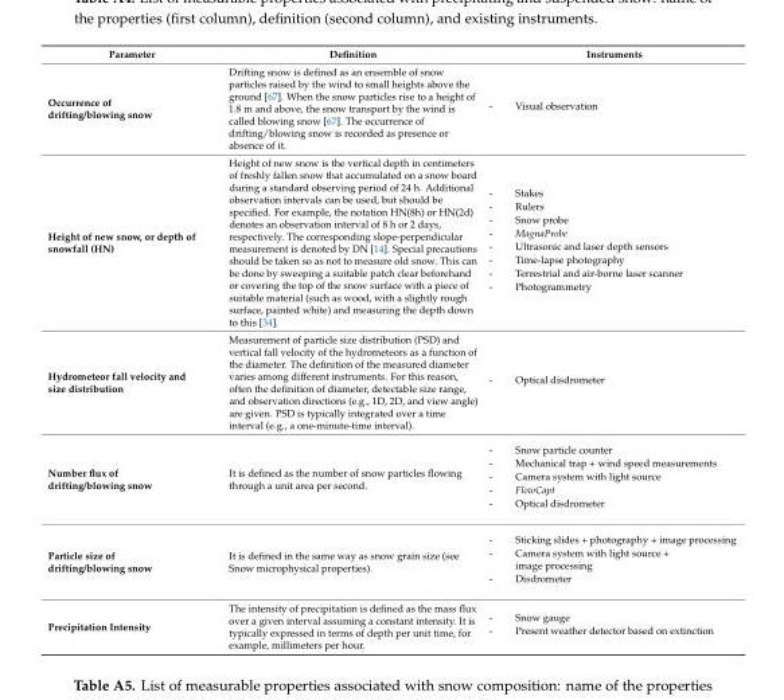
<table><thead><tr><td>Parameter</td><td>Definition</td><td>Instruments</td></tr></thead><tbody><tr><td>Occurrence of drifting/blowing snow</td><td>Drifting snow is defined as an ensemble of snow particles raised by the wind to small heights above the ground [67]. When the snow particles rise to a height of 1.8 m and above, the snow transport by the wind is called blowing snow [67]. The occurrence of drifting/blowing snow is recorded as presence or absence of it.</td><td>- Visual observation</td></tr><tr><td>Height of new snow, or depth of snowfall (HN)</td><td>Height of new snow is the vertical depth in centimeters of freshly fallen snow that accumulated on a snow board during a standard observing period of 24 h. Additional observation intervals can be used, but should be specified. For example, the notation HN(8h) or HN(2d) denotes an observation interval of 8 h or 2 days, respectively. The corresponding slope-perpendicular measurement is denoted by DN [14]. Special precautions should be taken so as not to measure old snow. This can be done by sweeping a suitable patch clear beforehand or covering the top of the snow surface with a piece of suitable material (such as wood, with a slightly rough surface, painted white) and measuring the depth down to this [34].</td><td>- Stakes - Rulers - Snow probe - MagnaProbe - Ultrasonic and laser depth sensors - Time-lapse photography - Terrestrial and air-borne laser scanner - Photogrammetry</td></tr><tr><td>Hydrometeor fall velocity and size distribution</td><td>Measurement of particle size distribution (PSD) and vertical fall velocity of the hydrometeors as a function of the diameter. The definition of the measured diameter varies among different instruments. For this reason, often the definition of diameter, detectable size range, and observation directions (e.g., 1D, 2D, and view angle) are given. PSD is typically integrated over a time interval (e.g., a one-minute-time interval).</td><td>- Optical disdrometer</td></tr><tr><td>Number flux of drifting/blowing snow</td><td>It is defined as the number of snow particles flowing through a unit area per second.</td><td>- Snow particle counter - Mechanical trap + wind speed measurements - Camera system with light source - FlowCapt - Optical disdrometer</td></tr><tr><td>Particle size of drifting/blowing snow</td><td>It is defined in the same way as snow grain size (see Snow microphysical properties).</td><td>- Sticking slides + photography + image processing - Camera system with light source + image processing - Disdrometer</td></tr><tr><td>Precipitation Intensity</td><td>The intensity of precipitation is defined as the mass flux over a given interval assuming a constant intensity. It is typically expressed in terms of depth per unit time, for example, millimeters per hour.</td><td>- Snow gauge - Present weather detector based on extinction</td></tr></tbody></table>